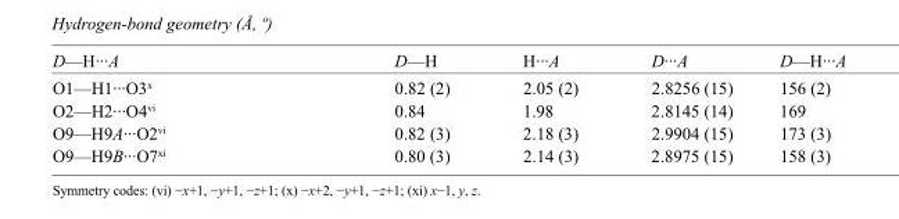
<table><tbody><tr><td>D—H···A</td><td>D—H</td><td>H···A</td><td>D···A</td><td>D—H···A</td></tr><tr><td>O1—H1···O3<sup>x</sup></td><td>0.82 (2)</td><td>2.05 (2)</td><td>2.8256 (15)</td><td>156 (2)</td></tr><tr><td>O2—H2···O4<sup>vi</sup></td><td>0.84</td><td>1.98</td><td>2.8145 (14)</td><td>169</td></tr><tr><td>O9—H9A···O2<sup>vi</sup></td><td>0.82 (3)</td><td>2.18 (3)</td><td>2.9904 (15)</td><td>173 (3)</td></tr><tr><td>O9—H9B···O7<sup>xi</sup></td><td>0.80 (3)</td><td>2.14 (3)</td><td>2.8975 (15)</td><td>158 (3)</td></tr></tbody></table>